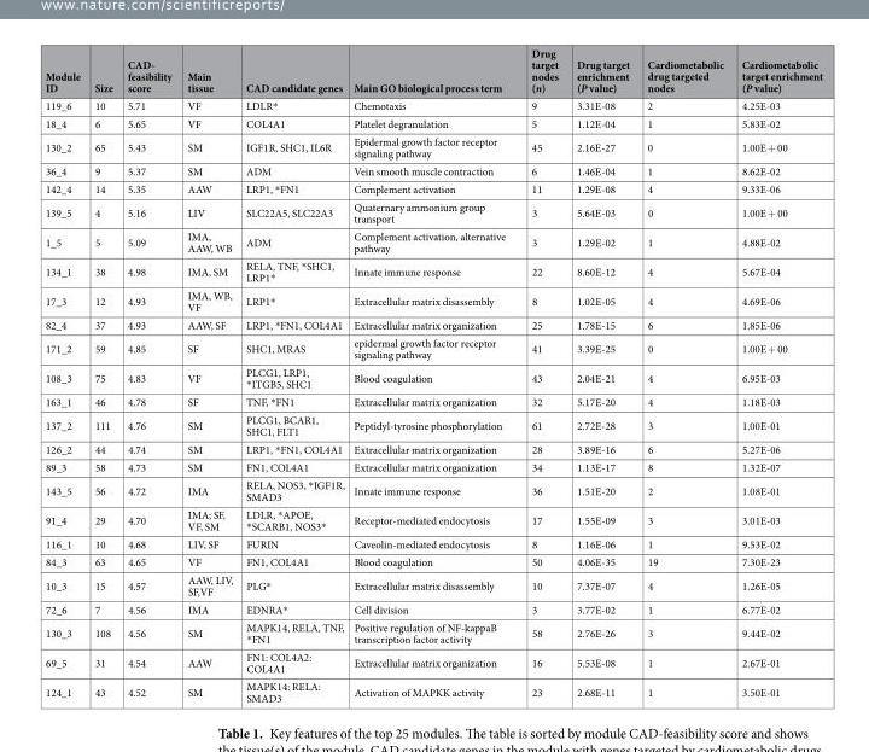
<table><thead><tr><td>Module ID</td><td>Size</td><td>CAD- feasibility score</td><td>Main tissue</td><td>CAD candidate genes</td><td>Main GO biological process term</td><td>Drug target nodes (n)</td><td>Drug target enrichment (P value)</td><td>Cardiometabolic drug targeted nodes</td><td>Cardiometabolic target enrichment (P value)</td></tr></thead><tbody><tr><td>119_6</td><td>10</td><td>5.71</td><td>VF</td><td>LDLR*</td><td>Chemotaxis</td><td>9</td><td>3.31E-08</td><td>2</td><td>4.25E-03</td></tr><tr><td>18_4</td><td>6</td><td>5.65</td><td>VF</td><td>COL4A1</td><td>Platelet degranulation</td><td>5</td><td>1.12E-04</td><td>1</td><td>5.83E-02</td></tr><tr><td>130_2</td><td>65</td><td>5.43</td><td>SM</td><td>IGF1R, SHC1, IL6R</td><td>Epidermal growth factor receptor signaling pathway</td><td>45</td><td>2.16E-27</td><td>0</td><td>1.00E + 00</td></tr><tr><td>36_4</td><td>9</td><td>5.37</td><td>SM</td><td>ADM</td><td>Vein smooth muscle contraction</td><td>6</td><td>1.46E-04</td><td>1</td><td>8.62E-02</td></tr><tr><td>142_4</td><td>14</td><td>5.35</td><td>AAW</td><td>LRP1, *FN1</td><td>Complement activation</td><td>11</td><td>1.29E-08</td><td>4</td><td>9.33E-06</td></tr><tr><td>139_5</td><td>4</td><td>5.16</td><td>LIV</td><td>SLC22A5, SLC22A3</td><td>Quaternary ammonium group transport</td><td>3</td><td>5.64E-03</td><td>0</td><td>1.00E + 00</td></tr><tr><td>1_5</td><td>5</td><td>5.09</td><td>IMA, AAW, WB</td><td>ADM</td><td>Complement activation, alternative pathway</td><td>3</td><td>1.29E-02</td><td>1</td><td>4.88E-02</td></tr><tr><td>134_1</td><td>38</td><td>4.98</td><td>IMA, SM</td><td>RELA, TNF, *SHC1, LRP1*</td><td>Innate immune response</td><td>22</td><td>8.60E-12</td><td>4</td><td>5.67E-04</td></tr><tr><td>17_3</td><td>12</td><td>4.93</td><td>IMA, WB, VF</td><td>LRP1*</td><td>Extracellular matrix disassembly</td><td>8</td><td>1.02E-05</td><td>4</td><td>4.69E-06</td></tr><tr><td>82_4</td><td>37</td><td>4.93</td><td>AAW, SF</td><td>LRP1, *FN1, COL4A1</td><td>Extracellular matrix organization</td><td>25</td><td>1.78E-15</td><td>6</td><td>1.85E-06</td></tr><tr><td>171_2</td><td>59</td><td>4.85</td><td>SF</td><td>SHC1, MRAS</td><td>epidermal growth factor receptor signaling pathway</td><td>41</td><td>3.39E-25</td><td>0</td><td>1.00E + 00</td></tr><tr><td>108_3</td><td>75</td><td>4.83</td><td>VF</td><td>PLCG1, LRP1, *ITGB5, SHC1</td><td>Blood coagulation</td><td>43</td><td>2.04E-21</td><td>4</td><td>6.95E-03</td></tr><tr><td>163_1</td><td>46</td><td>4.78</td><td>SF</td><td>TNF, *FN1</td><td>Extracellular matrix organization</td><td>32</td><td>5.17E-20</td><td>4</td><td>1.18E-03</td></tr><tr><td>137_2</td><td>111</td><td>4.76</td><td>SM</td><td>PLCG1, BCAR1, SHC1, FLT1</td><td>Peptidyl-tyrosine phosphorylation</td><td>61</td><td>2.72E-28</td><td>3</td><td>1.00E-01</td></tr><tr><td>126_2</td><td>44</td><td>4.74</td><td>SM</td><td>LRP1, *FN1, COL4A1</td><td>Extracellular matrix organization</td><td>28</td><td>3.89E-16</td><td>6</td><td>5.27E-06</td></tr><tr><td>89_3</td><td>58</td><td>4.73</td><td>SM</td><td>FN1, COL4A1</td><td>Extracellular matrix organization</td><td>34</td><td>1.13E-17</td><td>8</td><td>1.32E-07</td></tr><tr><td>143_5</td><td>56</td><td>4.72</td><td>IMA</td><td>RELA, NOS3, *IGF1R, SMAD3</td><td>Innate immune response</td><td>36</td><td>1.51E-20</td><td>2</td><td>1.08E-01</td></tr><tr><td>91_4</td><td>29</td><td>4.70</td><td>IMA; SF, VF, SM</td><td>LDLR, *APOE, *SCARB1, NOS3*</td><td>Receptor-mediated endocytosis</td><td>17</td><td>1.55E-09</td><td>3</td><td>3.01E-03</td></tr><tr><td>116_1</td><td>10</td><td>4.68</td><td>LIV, SF</td><td>FURIN</td><td>Caveolin-mediated endocytosis</td><td>8</td><td>1.16E-06</td><td>1</td><td>9.53E-02</td></tr><tr><td>84_3</td><td>63</td><td>4.65</td><td>VF</td><td>FN1, COL4A1</td><td>Blood coagulation</td><td>50</td><td>4.06E-35</td><td>19</td><td>7.30E-23</td></tr><tr><td>10_3</td><td>15</td><td>4.57</td><td>AAW, LIV, SF,VF</td><td>PLG*</td><td>Extracellular matrix disassembly</td><td>10</td><td>7.37E-07</td><td>4</td><td>1.26E-05</td></tr><tr><td>72_6</td><td>7</td><td>4.56</td><td>IMA</td><td>EDNRA*</td><td>Cell division</td><td>3</td><td>3.77E-02</td><td>1</td><td>6.77E-02</td></tr><tr><td>130_3</td><td>108</td><td>4.56</td><td>SM</td><td>MAPK14, RELA, TNF, *FN1</td><td>Positive regulation of NF-kappaB transcription factor activity</td><td>58</td><td>2.76E-26</td><td>3</td><td>9.44E-02</td></tr><tr><td>69_5</td><td>31</td><td>4.54</td><td>AAW</td><td>FN1: COL4A2: COL4A1</td><td>Extracellular matrix organization</td><td>16</td><td>5.53E-08</td><td>1</td><td>2.67E-01</td></tr><tr><td>124_1</td><td>43</td><td>4.52</td><td>SM</td><td>MAPK14: RELA: SMAD3</td><td>Activation of MAPKK activity</td><td>23</td><td>2.68E-11</td><td>1</td><td>3.50E-01</td></tr></tbody></table>